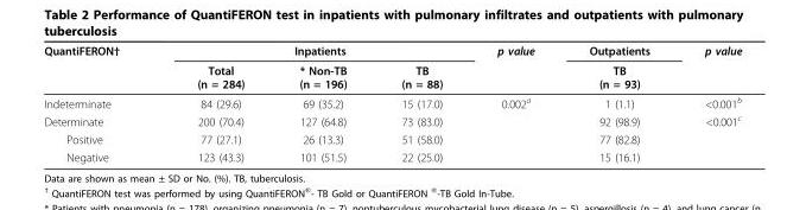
<table><thead><tr><td rowspan="2">QuantiFERON†</td><td colspan="3">Inpatients</td><td rowspan="2">p value</td><td rowspan="2">Outpatients TB (n = 93)</td><td rowspan="2">p value</td></tr><tr><td>Total (n = 284)</td><td>* Non-TB (n = 196)</td><td>TB (n = 88)</td></tr></thead><tbody><tr><td>Indeterminate</td><td>84 (29.6)</td><td>69 (35.2)</td><td>15 (17.0)</td><td>0.002<sup>a</sup></td><td>1 (1.1)</td><td>&lt;0.001<sup>b</sup></td></tr><tr><td>Determinate</td><td>200 (70.4)</td><td>127 (64.8)</td><td>73 (83.0)</td><td></td><td>92 (98.9)</td><td>&lt;0.001<sup>c</sup></td></tr><tr><td>Positive</td><td>77 (27.1)</td><td>26 (13.3)</td><td>51 (58.0)</td><td></td><td>77 (82.8)</td><td></td></tr><tr><td>Negative</td><td>123 (43.3)</td><td>101 (51.5)</td><td>22 (25.0)</td><td></td><td>15 (16.1)</td><td></td></tr></tbody></table>